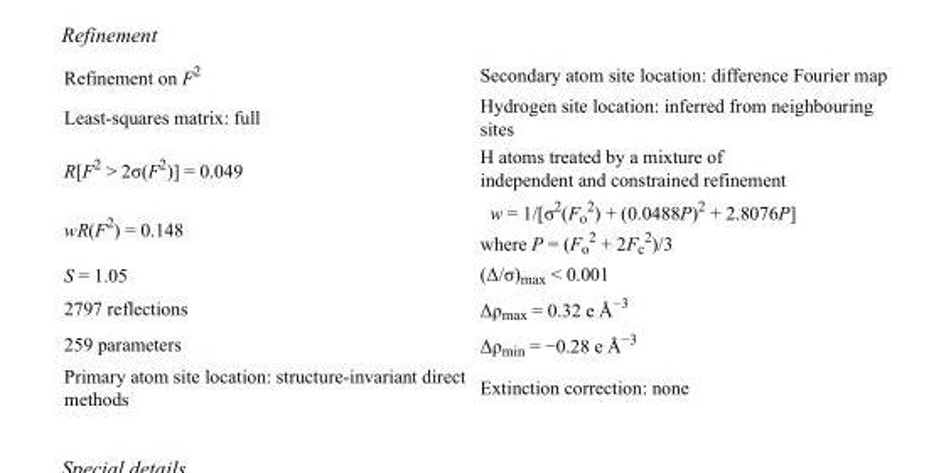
<table><tbody><tr><td>Refinement on F<sup>2</sup></td><td>Secondary atom site location: difference Fourier map</td></tr><tr><td>Least-squares matrix: full</td><td>Hydrogen site location: inferred from neighbouring sites</td></tr><tr><td>R[F<sup>2</sup> &gt; 2σ(F<sup>2</sup>)] = 0.049</td><td>H atoms treated by a mixture of independent and constrained refinement</td></tr><tr><td>wR(F<sup>2</sup>) = 0.148</td><td>w = 1/[σ<sup>2</sup>(F<sub>o</sub> <sup>2</sup>) + (0.0488P)<sup>2</sup> + 2.8076P] where P = (F<sub>o</sub> <sup>2</sup> + 2F<sub>c</sub> <sup>2</sup>)/3</td></tr><tr><td>S = 1.05</td><td>(Δ/σ)<sub>max</sub> &lt; 0.001</td></tr><tr><td>2797 reflections</td><td>Δρ<sub>max</sub> = 0.32 e Å<sup>−3</sup></td></tr><tr><td>259 parameters</td><td>Δρ<sub>min</sub> = −0.28 e Å<sup>−3</sup></td></tr><tr><td>Primary atom site location: structure-invariant direct methods</td><td>Extinction correction: none</td></tr></tbody></table>